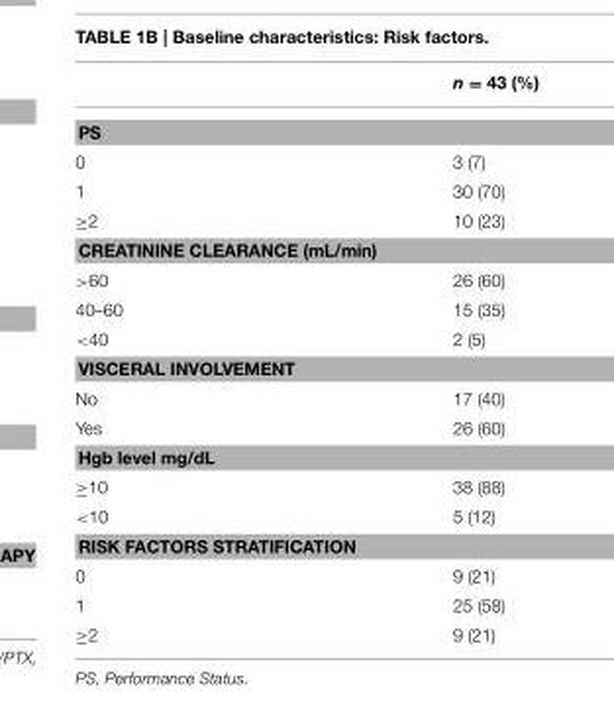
<table><thead><tr><td></td><td>n = 43 (%)</td></tr></thead><tbody><tr><td colspan="2">PS</td></tr><tr><td>0</td><td>3 (7)</td></tr><tr><td>1</td><td>30 (70)</td></tr><tr><td>≥2</td><td>10 (23)</td></tr><tr><td colspan="2">CREATININE CLEARANCE (mL/min)</td></tr><tr><td>&gt;60</td><td>26 (60)</td></tr><tr><td>40–60</td><td>15 (35)</td></tr><tr><td>&lt;40</td><td>2 (5)</td></tr><tr><td colspan="2">VISCERAL INVOLVEMENT</td></tr><tr><td>No</td><td>17 (40)</td></tr><tr><td>Yes</td><td>26 (60)</td></tr><tr><td colspan="2">Hgb level mg/dL</td></tr><tr><td>≥10</td><td>38 (88)</td></tr><tr><td>&lt;10</td><td>5 (12)</td></tr><tr><td colspan="2">RISK FACTORS STRATIFICATION</td></tr><tr><td>0</td><td>9 (21)</td></tr><tr><td>1</td><td>25 (58)</td></tr><tr><td>≥2</td><td>9 (21)</td></tr></tbody></table>